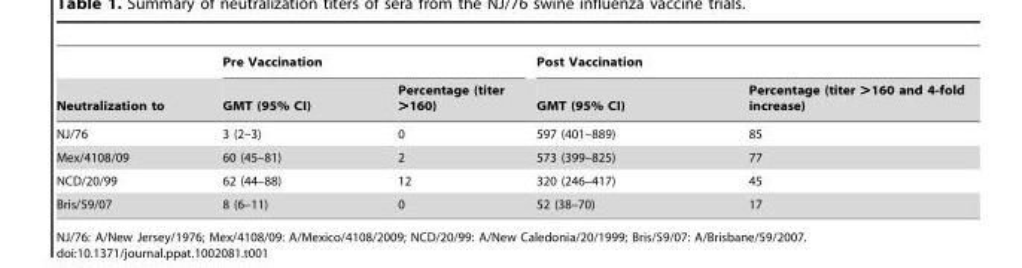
<table><thead><tr><td rowspan="2">Neutralization to</td><td colspan="2">Pre Vaccination</td><td colspan="2">Post Vaccination</td></tr><tr><td>GMT (95% CI)</td><td>Percentage (titer &gt;160)</td><td>GMT (95% CI)</td><td>Percentage (titer &gt;160 and 4-fold increase)</td></tr></thead><tbody><tr><td>NJ/76</td><td>3 (2–3)</td><td>0</td><td>597 (401–889)</td><td>85</td></tr><tr><td>Mex/4108/09</td><td>60 (45–81)</td><td>2</td><td>573 (399–825)</td><td>77</td></tr><tr><td>NCD/20/99</td><td>62 (44–88)</td><td>12</td><td>320 (246–417)</td><td>45</td></tr><tr><td>Bris/59/07</td><td>8 (6–11)</td><td>0</td><td>52 (38–70)</td><td>17</td></tr></tbody></table>